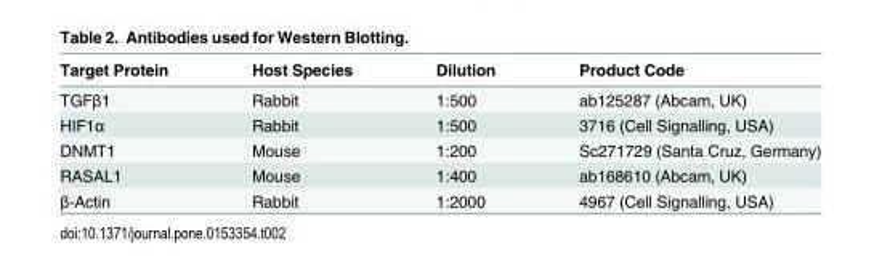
<table><thead><tr><td>Target Protein</td><td>Host Species</td><td>Dilution</td><td>Product Code</td></tr></thead><tbody><tr><td>TGFβ1</td><td>Rabbit</td><td>1:500</td><td>ab125287 (Abcam, UK)</td></tr><tr><td>HIF1α</td><td>Rabbit</td><td>1:500</td><td>3716 (Cell Signalling, USA)</td></tr><tr><td>DNMT1</td><td>Mouse</td><td>1:200</td><td>Sc271729 (Santa Cruz, Germany)</td></tr><tr><td>RASAL1</td><td>Mouse</td><td>1:400</td><td>ab168610 (Abcam, UK)</td></tr><tr><td>β-Actin</td><td>Rabbit</td><td>1:2000</td><td>4967 (Cell Signalling, USA)</td></tr></tbody></table>